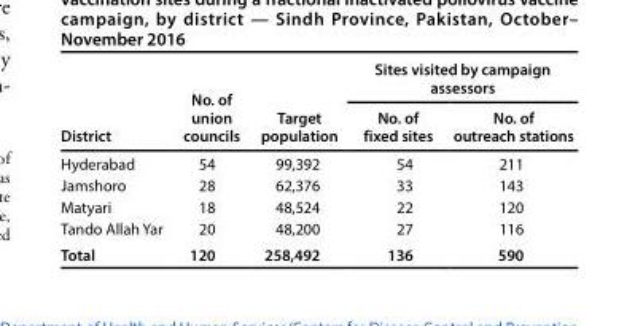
<table><thead><tr><td rowspan="2">District</td><td rowspan="2">No. of union councils</td><td rowspan="2">Target population</td><td colspan="2">Sites visited by campaign assessors</td></tr><tr><td>No. of fixed sites</td><td>No. of outreach stations</td></tr></thead><tbody><tr><td>Hyderabad</td><td>54</td><td>99,392</td><td>54</td><td>211</td></tr><tr><td>Jamshoro</td><td>28</td><td>62,376</td><td>33</td><td>143</td></tr><tr><td>Matyari</td><td>18</td><td>48,524</td><td>22</td><td>120</td></tr><tr><td>Tando Allah Yar</td><td>20</td><td>48,200</td><td>27</td><td>116</td></tr><tr><td>Total</td><td>120</td><td>258,492</td><td>136</td><td>590</td></tr></tbody></table>